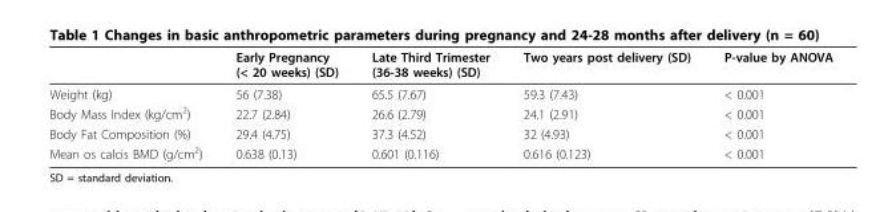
<table><thead><tr><td></td><td>Early Pregnancy (&lt; 20 weeks) (SD)</td><td>Late Third Trimester (36-38 weeks) (SD)</td><td>Two years post delivery (SD)</td><td>P-value by ANOVA</td></tr></thead><tbody><tr><td>Weight (kg)</td><td>56 (7.38)</td><td>65.5 (7.67)</td><td>59.3 (7.43)</td><td>&lt; 0.001</td></tr><tr><td>Body Mass Index (kg/cm<sup>2</sup>)</td><td>22.7 (2.84)</td><td>26.6 (2.79)</td><td>24.1 (2.91)</td><td>&lt; 0.001</td></tr><tr><td>Body Fat Composition (%)</td><td>29.4 (4.75)</td><td>37.3 (4.52)</td><td>32 (4.93)</td><td>&lt; 0.001</td></tr><tr><td>Mean os calcis BMD (g/cm<sup>2</sup>)</td><td>0.638 (0.13)</td><td>0.601 (0.116)</td><td>0.616 (0.123)</td><td>&lt; 0.001</td></tr></tbody></table>